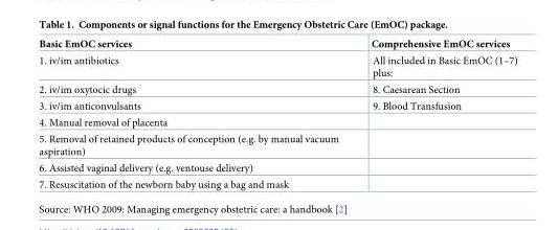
<table><thead><tr><td>Basic EmOC services</td><td>Comprehensive EmOC services</td></tr></thead><tbody><tr><td>1. iv/im antibiotics</td><td>All included in Basic EmOC (1–7) plus:</td></tr><tr><td>2. iv/im oxytocic drugs</td><td>8. Caesarean Section</td></tr><tr><td>3. iv/im anticonvulsants</td><td>9. Blood Transfusion</td></tr><tr><td colspan="2">4. Manual removal of placenta</td></tr><tr><td colspan="2">5. Removal of retained products of conception (e.g. by manual vacuum aspiration)</td></tr><tr><td colspan="2">6. Assisted vaginal delivery (e.g. ventouse delivery)</td></tr><tr><td>7. Resuscitation of the newborn baby using a bag and mask</td><td></td></tr></tbody></table>